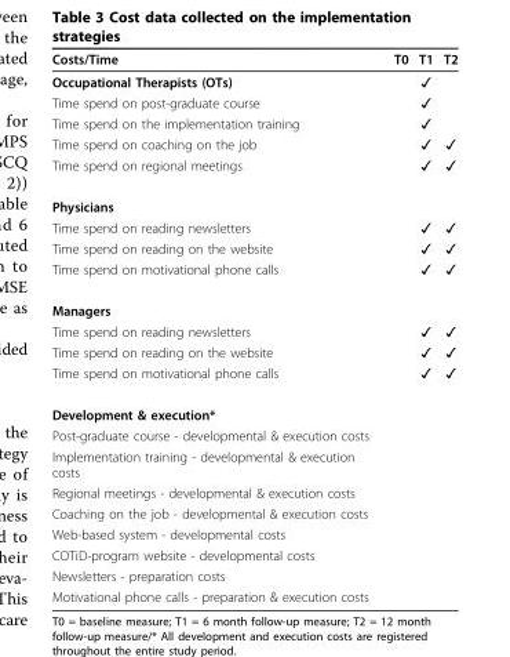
<table><thead><tr><td>Costs/Time</td><td>T0</td><td>T1</td><td>T2</td></tr></thead><tbody><tr><td>Occupational Therapists (OTs)</td><td></td><td>✓</td><td></td></tr><tr><td>Time spend on post-graduate course</td><td></td><td>✓</td><td></td></tr><tr><td>Time spend on the implementation training</td><td></td><td>✓</td><td></td></tr><tr><td>Time spend on coaching on the job</td><td></td><td>✓</td><td>✓</td></tr><tr><td>Time spend on regional meetings</td><td></td><td>✓</td><td>✓</td></tr><tr><td colspan="4">Physicians</td></tr><tr><td>Time spend on reading newsletters</td><td></td><td>✓</td><td>✓</td></tr><tr><td>Time spend on reading on the website</td><td></td><td>✓</td><td>✓</td></tr><tr><td>Time spend on motivational phone calls</td><td></td><td>✓</td><td>✓</td></tr><tr><td colspan="4">Managers</td></tr><tr><td>Time spend on reading newsletters</td><td></td><td>✓</td><td>✓</td></tr><tr><td>Time spend on reading on the website</td><td></td><td>✓</td><td>✓</td></tr><tr><td>Time spend on motivational phone calls</td><td></td><td>✓</td><td>✓</td></tr><tr><td colspan="4">Development &amp; execution*</td></tr><tr><td colspan="4">Post-graduate course - developmental &amp; execution costs</td></tr><tr><td colspan="4">Implementation training - developmental &amp; execution costs</td></tr><tr><td colspan="4">Regional meetings - developmental &amp; execution costs</td></tr><tr><td colspan="4">Coaching on the job - developmental &amp; execution costs</td></tr><tr><td colspan="4">Web-based system - developmental costs</td></tr><tr><td colspan="4">COTiD-program website - developmental costs</td></tr><tr><td colspan="4">Newsletters - preparation costs</td></tr><tr><td>Motivational phone calls - preparation &amp; execution costs</td><td></td><td></td><td></td></tr></tbody></table>